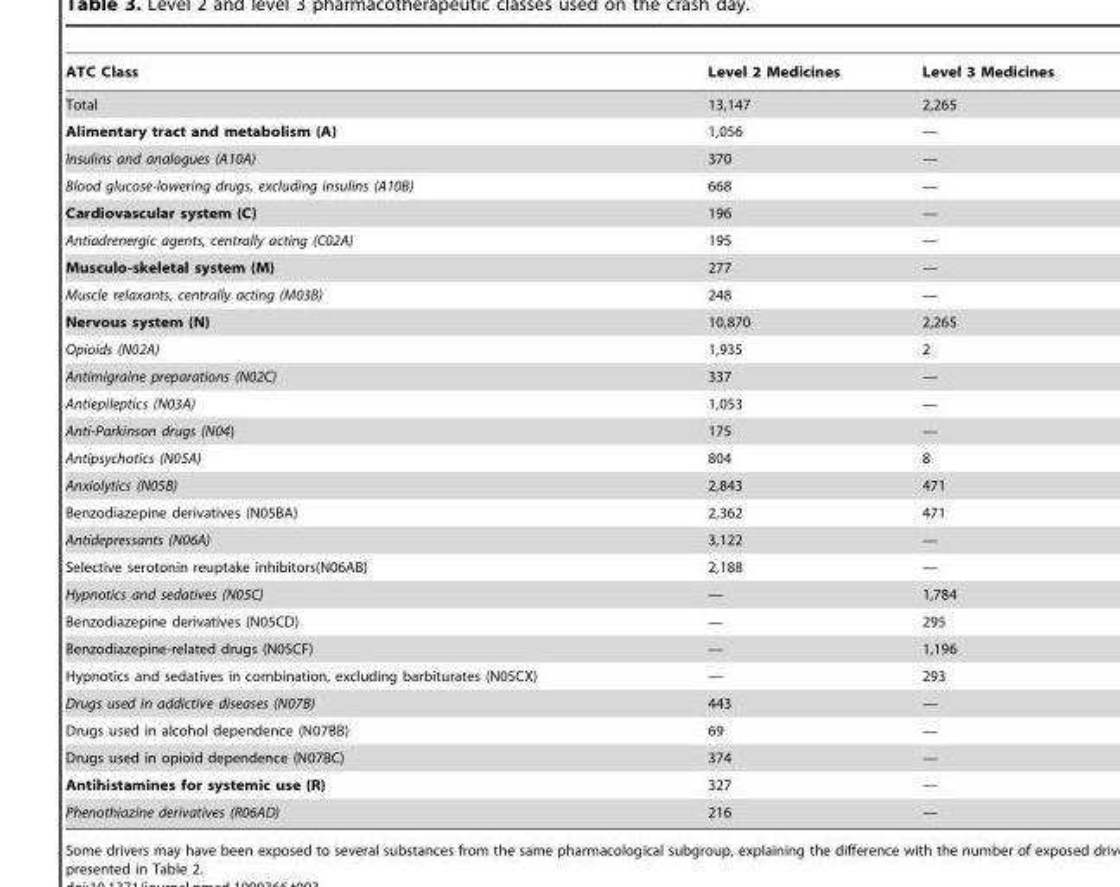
<table><thead><tr><td>ATC Class</td><td>Level 2 Medicines</td><td>Level 3 Medicines</td></tr></thead><tbody><tr><td>Total</td><td>13,147</td><td>2,265</td></tr><tr><td>Alimentary tract and metabolism (A)</td><td>1,056</td><td>—</td></tr><tr><td>Insulins and analogues (A10A)</td><td>370</td><td>—</td></tr><tr><td>Blood glucose-lowering drugs, excluding insulins (A10B)</td><td>668</td><td>—</td></tr><tr><td>Cardiovascular system (C)</td><td>196</td><td>—</td></tr><tr><td>Antiadrenergic agents, centrally acting (C02A)</td><td>195</td><td>—</td></tr><tr><td>Musculo-skeletal system (M)</td><td>277</td><td>—</td></tr><tr><td>Muscle relaxants, centrally acting (M03B)</td><td>248</td><td>—</td></tr><tr><td>Nervous system (N)</td><td>10,870</td><td>2,265</td></tr><tr><td>Opioids (N02A)</td><td>1,935</td><td>2</td></tr><tr><td>Antimigraine preparations (N02C)</td><td>337</td><td>—</td></tr><tr><td>Antiepileptics (N03A)</td><td>1,053</td><td>—</td></tr><tr><td>Anti-Parkinson drugs (N04)</td><td>175</td><td>—</td></tr><tr><td>Antipsychotics (N05A)</td><td>804</td><td>8</td></tr><tr><td>Anxiolytics (N05B)</td><td>2,843</td><td>471</td></tr><tr><td>Benzodiazepine derivatives (N05BA)</td><td>2,362</td><td>471</td></tr><tr><td>Antidepressants (N06A)</td><td>3,122</td><td>—</td></tr><tr><td>Selective serotonin reuptake inhibitors(N06AB)</td><td>2,188</td><td>—</td></tr><tr><td>Hypnotics and sedatives (N05C)</td><td>—</td><td>1,784</td></tr><tr><td>Benzodiazepine derivatives (N05CD)</td><td>—</td><td>295</td></tr><tr><td>Benzodiazepine-related drugs (N05CF)</td><td>—</td><td>1,196</td></tr><tr><td>Hypnotics and sedatives in combination, excluding barbiturates (N05CX)</td><td>—</td><td>293</td></tr><tr><td>Drugs used in addictive diseases (N07B)</td><td>443</td><td>—</td></tr><tr><td>Drugs used in alcohol dependence (N07BB)</td><td>69</td><td>—</td></tr><tr><td>Drugs used in opioid dependence (N07BC)</td><td>374</td><td>—</td></tr><tr><td>Antihistamines for systemic use (R)</td><td>327</td><td>—</td></tr><tr><td>Phenothiazine derivatives (R06AD)</td><td>216</td><td>—</td></tr></tbody></table>